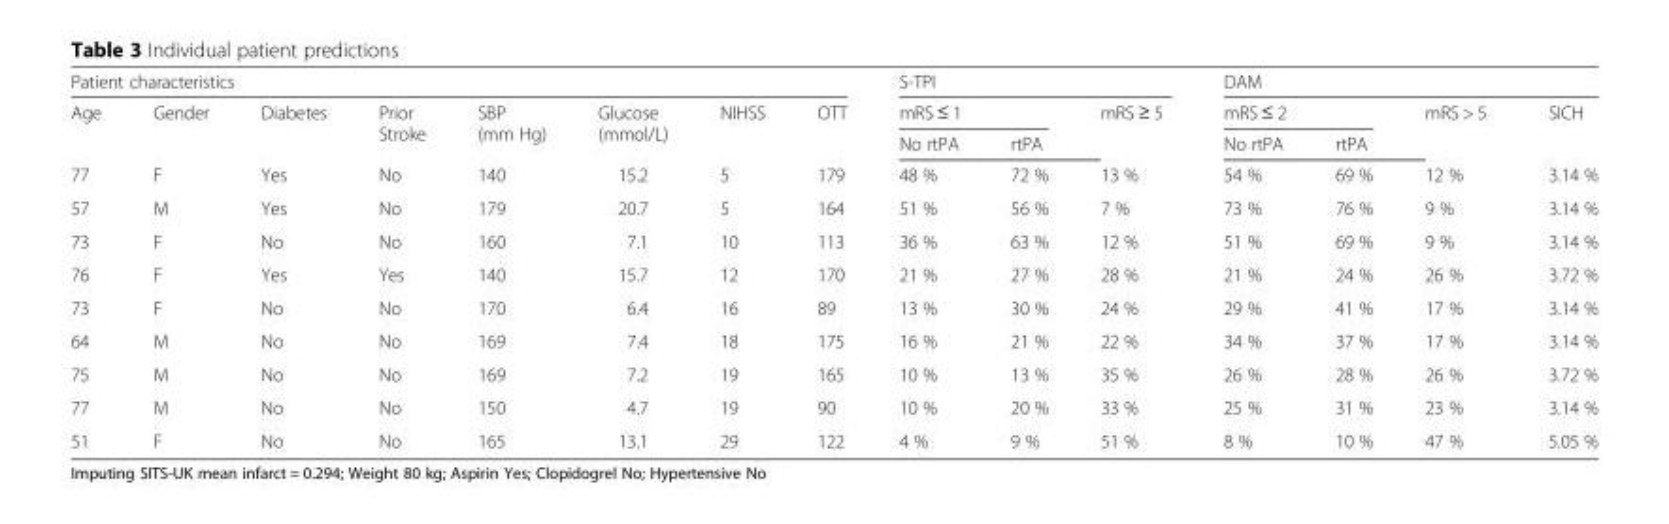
<table><thead><tr><td colspan="8">Patient characteristics</td><td colspan="3">S-TPI</td><td colspan="4">DAM</td></tr><tr><td rowspan="2">Age</td><td rowspan="2">Gender</td><td rowspan="2">Diabetes</td><td rowspan="2">Prior Stroke</td><td rowspan="2">SBP (mm Hg)</td><td rowspan="2">Glucose (mmol/L)</td><td rowspan="2">NIHSS</td><td rowspan="2">OTT</td><td colspan="2">mRS ≤ 1</td><td rowspan="2">mRS ≥ 5</td><td colspan="2">mRS ≤ 2</td><td rowspan="2">mRS &gt; 5</td><td rowspan="2">SICH</td></tr><tr><td>No rtPA</td><td>rtPA</td><td>No rtPA</td><td>rtPA</td></tr></thead><tbody><tr><td>77</td><td>F</td><td>Yes</td><td>No</td><td>140</td><td>15.2</td><td>5</td><td>179</td><td>48 %</td><td>72 %</td><td>13 %</td><td>54 %</td><td>69 %</td><td>12 %</td><td>3.14 %</td></tr><tr><td>57</td><td>M</td><td>Yes</td><td>No</td><td>179</td><td>20.7</td><td>5</td><td>164</td><td>51 %</td><td>56 %</td><td>7 %</td><td>73 %</td><td>76 %</td><td>9 %</td><td>3.14 %</td></tr><tr><td>73</td><td>F</td><td>No</td><td>No</td><td>160</td><td>7.1</td><td>10</td><td>113</td><td>36 %</td><td>63 %</td><td>12 %</td><td>51 %</td><td>69 %</td><td>9 %</td><td>3.14 %</td></tr><tr><td>76</td><td>F</td><td>Yes</td><td>Yes</td><td>140</td><td>15.7</td><td>12</td><td>170</td><td>21 %</td><td>27 %</td><td>28 %</td><td>21 %</td><td>24 %</td><td>26 %</td><td>3.72 %</td></tr><tr><td>73</td><td>F</td><td>No</td><td>No</td><td>170</td><td>6.4</td><td>16</td><td>89</td><td>13 %</td><td>30 %</td><td>24 %</td><td>29 %</td><td>41 %</td><td>17 %</td><td>3.14 %</td></tr><tr><td>64</td><td>M</td><td>No</td><td>No</td><td>169</td><td>7.4</td><td>18</td><td>175</td><td>16 %</td><td>21 %</td><td>22 %</td><td>34 %</td><td>37 %</td><td>17 %</td><td>3.14 %</td></tr><tr><td>75</td><td>M</td><td>No</td><td>No</td><td>169</td><td>7.2</td><td>19</td><td>165</td><td>10 %</td><td>13 %</td><td>35 %</td><td>26 %</td><td>28 %</td><td>26 %</td><td>3.72 %</td></tr><tr><td>77</td><td>M</td><td>No</td><td>No</td><td>150</td><td>4.7</td><td>19</td><td>90</td><td>10 %</td><td>20 %</td><td>33 %</td><td>25 %</td><td>31 %</td><td>23 %</td><td>3.14 %</td></tr><tr><td>51</td><td>F</td><td>No</td><td>No</td><td>165</td><td>13.1</td><td>29</td><td>122</td><td>4 %</td><td>9 %</td><td>51 %</td><td>8 %</td><td>10 %</td><td>47 %</td><td>5.05 %</td></tr></tbody></table>